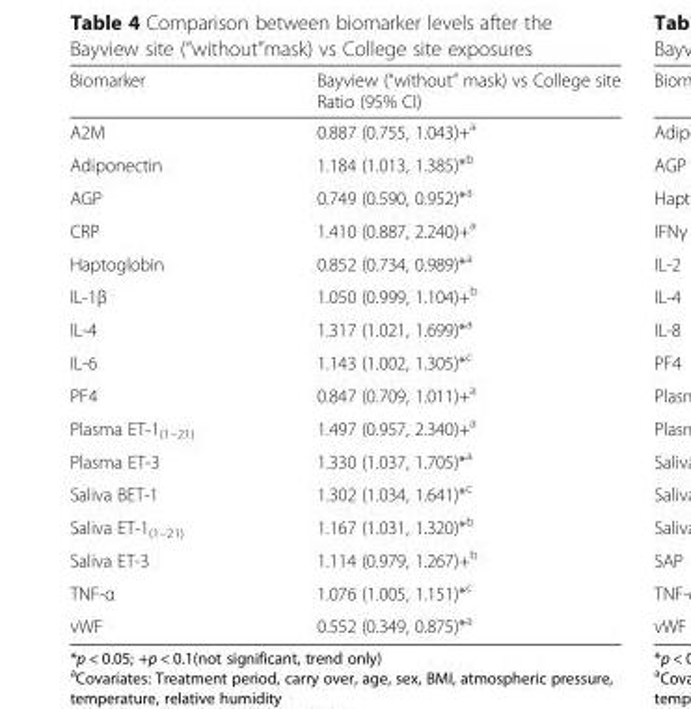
<table><thead><tr><td>Biomarker</td><td>Bayview (“without” mask) vs College site Ratio (95% CI)</td></tr></thead><tbody><tr><td>A2M</td><td>0.887 (0.755, 1.043)+<sup>a</sup></td></tr><tr><td>Adiponectin</td><td>1.184 (1.013, 1.385)*<sup>b</sup></td></tr><tr><td>AGP</td><td>0.749 (0.590, 0.952)*<sup>a</sup></td></tr><tr><td>CRP</td><td>1.410 (0.887, 2.240)+<sup>a</sup></td></tr><tr><td>Haptoglobin</td><td>0.852 (0.734, 0.989)*<sup>a</sup></td></tr><tr><td>IL-1β</td><td>1.050 (0.999, 1.104)+<sup>b</sup></td></tr><tr><td>IL-4</td><td>1.317 (1.021, 1.699)*<sup>a</sup></td></tr><tr><td>IL-6</td><td>1.143 (1.002, 1.305)*<sup>c</sup></td></tr><tr><td>PF4</td><td>0.847 (0.709, 1.011)+<sup>a</sup></td></tr><tr><td>Plasma ET-1<sub>(1–21)</sub></td><td>1.497 (0.957, 2.340)+<sup>a</sup></td></tr><tr><td>Plasma ET-3</td><td>1.330 (1.037, 1.705)*<sup>a</sup></td></tr><tr><td>Saliva BET-1</td><td>1.302 (1.034, 1.641)*<sup>c</sup></td></tr><tr><td>Saliva ET-1<sub>(1–21)</sub></td><td>1.167 (1.031, 1.320)*<sup>b</sup></td></tr><tr><td>Saliva ET-3</td><td>1.114 (0.979, 1.267)+<sup>b</sup></td></tr><tr><td>TNF-α</td><td>1.076 (1.005, 1.151)*<sup>c</sup></td></tr><tr><td>vWF</td><td>0.552 (0.349, 0.875)*<sup>a</sup></td></tr></tbody></table>